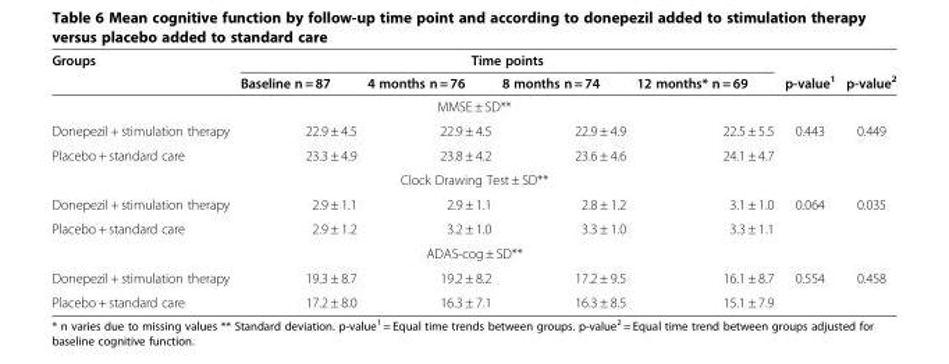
<table><thead><tr><td rowspan="2">Groups</td><td colspan="4">Time points</td><td rowspan="2">p-value<sup>1</sup></td><td rowspan="2">p-value<sup>2</sup></td></tr><tr><td>Baseline n = 87</td><td>4 months n = 76</td><td>8 months n = 74</td><td>12 months* n = 69</td></tr></thead><tbody><tr><td colspan="7">MMSE ± SD**</td></tr><tr><td>Donepezil + stimulation therapy</td><td>22.9 ± 4.5</td><td>22.9 ± 4.5</td><td>22.9 ± 4.9</td><td>22.5 ± 5.5</td><td>0.443</td><td>0.449</td></tr><tr><td>Placebo + standard care</td><td>23.3 ± 4.9</td><td>23.8 ± 4.2</td><td>23.6 ± 4.6</td><td>24.1 ± 4.7</td><td></td><td></td></tr><tr><td colspan="7">Clock Drawing Test ± SD**</td></tr><tr><td>Donepezil + stimulation therapy</td><td>2.9 ± 1.1</td><td>2.9 ± 1.1</td><td>2.8 ± 1.2</td><td>3.1 ± 1.0</td><td>0.064</td><td>0.035</td></tr><tr><td>Placebo + standard care</td><td>2.9 ± 1.2</td><td>3.2 ± 1.0</td><td>3.3 ± 1.0</td><td>3.3 ± 1.1</td><td></td><td></td></tr><tr><td colspan="7">ADAS-cog ± SD**</td></tr><tr><td>Donepezil + stimulation therapy</td><td>19.3 ± 8.7</td><td>19.2 ± 8.2</td><td>17.2 ± 9.5</td><td>16.1 ± 8.7</td><td>0.554</td><td>0.458</td></tr><tr><td>Placebo + standard care</td><td>17.2 ± 8.0</td><td>16.3 ± 7.1</td><td>16.3 ± 8.5</td><td>15.1 ± 7.9</td><td></td><td></td></tr></tbody></table>